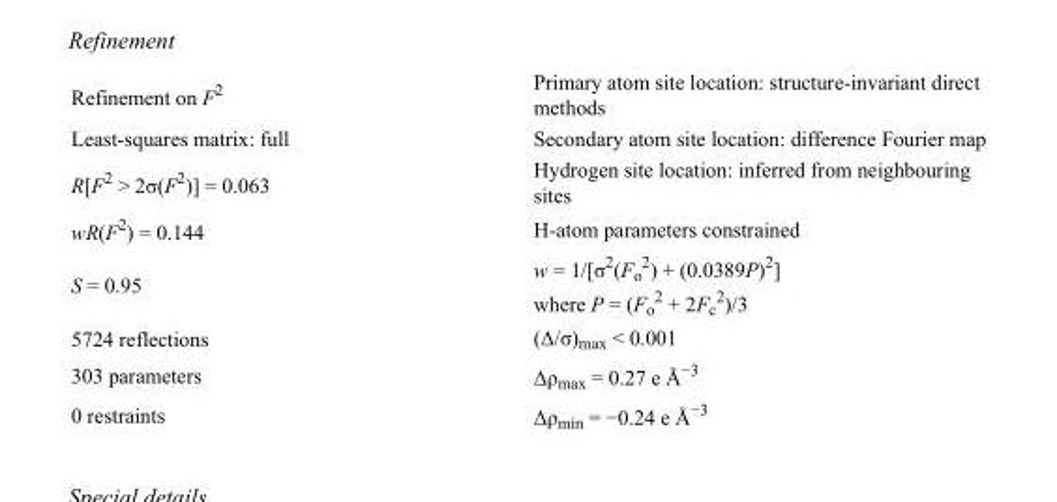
<table><tbody><tr><td>Refinement on F<sup>2</sup></td><td>Primary atom site location: structure-invariant direct methods</td></tr><tr><td>Least-squares matrix: full</td><td>Secondary atom site location: difference Fourier map</td></tr><tr><td>R[F<sup>2</sup> &gt; 2σ(F<sup>2</sup>)] = 0.063</td><td>Hydrogen site location: inferred from neighbouring sites</td></tr><tr><td>wR(F<sup>2</sup>) = 0.144</td><td>H-atom parameters constrained</td></tr><tr><td>S = 0.95</td><td>w = 1/[σ<sup>2</sup>(F<sub>o</sub> <sup>2</sup>) + (0.0389P)<sup>2</sup>] where P = (F<sub>o</sub> <sup>2</sup> + 2F<sub>c</sub> <sup>2</sup>)/3</td></tr><tr><td>5724 reflections</td><td>(Δ/σ)<sub>max</sub> &lt; 0.001</td></tr><tr><td>303 parameters</td><td>Δρ<sub>max</sub> = 0.27 e Å<sup>−3</sup></td></tr><tr><td>0 restraints</td><td>Δρ<sub>min</sub> = −0.24 e Å<sup>−3</sup></td></tr></tbody></table>